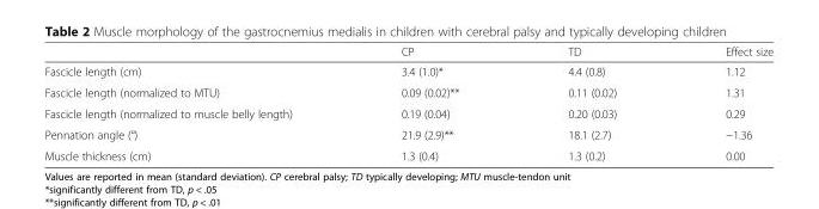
<table><thead><tr><td></td><td>CP</td><td>TD</td><td>Effect size</td></tr></thead><tbody><tr><td>Fascicle length (cm)</td><td>3.4 (1.0)*</td><td>4.4 (0.8)</td><td>1.12</td></tr><tr><td>Fascicle length (normalized to MTU)</td><td>0.09 (0.02)**</td><td>0.11 (0.02)</td><td>1.31</td></tr><tr><td>Fascicle length (normalized to muscle belly length)</td><td>0.19 (0.04)</td><td>0.20 (0.03)</td><td>0.29</td></tr><tr><td>Pennation angle (°)</td><td>21.9 (2.9)**</td><td>18.1 (2.7)</td><td>−1.36</td></tr><tr><td>Muscle thickness (cm)</td><td>1.3 (0.4)</td><td>1.3 (0.2)</td><td>0.00</td></tr></tbody></table>